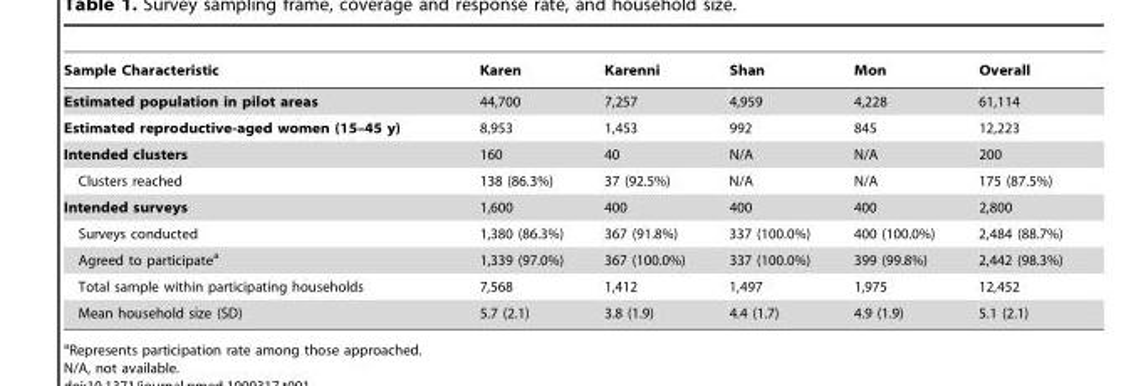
<table><thead><tr><td>Sample Characteristic</td><td>Karen</td><td>Karenni</td><td>Shan</td><td>Mon</td><td>Overall</td></tr></thead><tbody><tr><td>Estimated population in pilot areas</td><td>44,700</td><td>7,257</td><td>4,959</td><td>4,228</td><td>61,114</td></tr><tr><td>Estimated reproductive-aged women (15–45 y)</td><td>8,953</td><td>1,453</td><td>992</td><td>845</td><td>12,223</td></tr><tr><td>Intended clusters</td><td>160</td><td>40</td><td>N/A</td><td>N/A</td><td>200</td></tr><tr><td>Clusters reached</td><td>138 (86.3%)</td><td>37 (92.5%)</td><td>N/A</td><td>N/A</td><td>175 (87.5%)</td></tr><tr><td>Intended surveys</td><td>1,600</td><td>400</td><td>400</td><td>400</td><td>2,800</td></tr><tr><td>Surveys conducted</td><td>1,380 (86.3%)</td><td>367 (91.8%)</td><td>337 (100.0%)</td><td>400 (100.0%)</td><td>2,484 (88.7%)</td></tr><tr><td>Agreed to participate<sup>a</sup></td><td>1,339 (97.0%)</td><td>367 (100.0%)</td><td>337 (100.0%)</td><td>399 (99.8%)</td><td>2,442 (98.3%)</td></tr><tr><td>Total sample within participating households</td><td>7,568</td><td>1,412</td><td>1,497</td><td>1,975</td><td>12,452</td></tr><tr><td>Mean household size (SD)</td><td>5.7 (2.1)</td><td>3.8 (1.9)</td><td>4.4 (1.7)</td><td>4.9 (1.9)</td><td>5.1 (2.1)</td></tr></tbody></table>